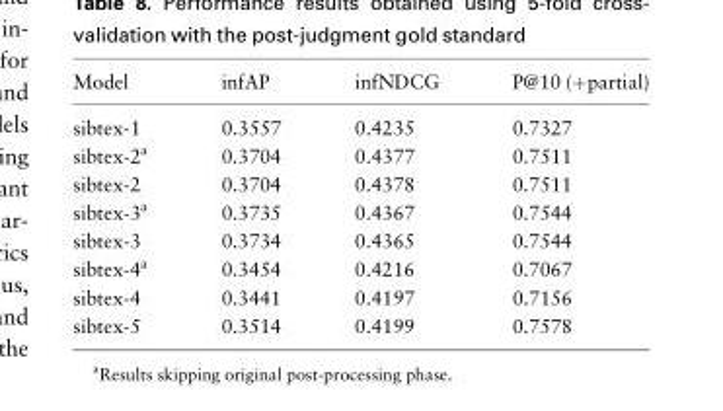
<table><thead><tr><td>Model</td><td>infAP</td><td>infNDCG</td><td>P@10 (+partial)</td></tr></thead><tbody><tr><td>sibtex-1</td><td>0.3557</td><td>0.4235</td><td>0.7327</td></tr><tr><td>sibtex-2<sup>a</sup></td><td>0.3704</td><td>0.4377</td><td>0.7511</td></tr><tr><td>sibtex-2</td><td>0.3704</td><td>0.4378</td><td>0.7511</td></tr><tr><td>sibtex-3<sup>a</sup></td><td>0.3735</td><td>0.4367</td><td>0.7544</td></tr><tr><td>sibtex-3</td><td>0.3734</td><td>0.4365</td><td>0.7544</td></tr><tr><td>sibtex-4<sup>a</sup></td><td>0.3454</td><td>0.4216</td><td>0.7067</td></tr><tr><td>sibtex-4</td><td>0.3441</td><td>0.4197</td><td>0.7156</td></tr><tr><td>sibtex-5</td><td>0.3514</td><td>0.4199</td><td>0.7578</td></tr></tbody></table>